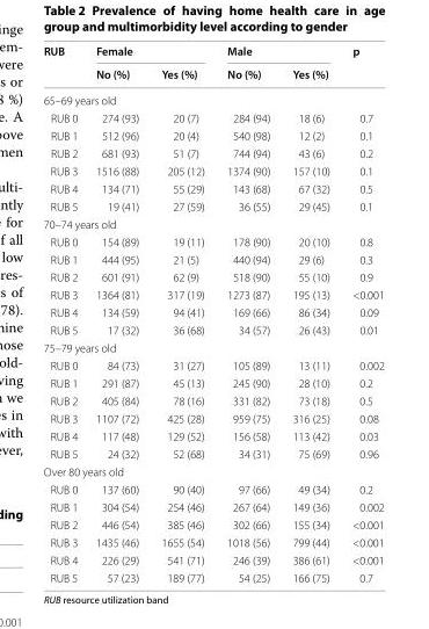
<table><thead><tr><td rowspan="2">RUB</td><td colspan="2">Female</td><td colspan="2">Male</td><td rowspan="2">p</td></tr><tr><td>No (%)</td><td>Yes (%)</td><td>No (%)</td><td>Yes (%)</td></tr></thead><tbody><tr><td colspan="6">65–69 years old</td></tr><tr><td>RUB 0</td><td>274 (93)</td><td>20 (7)</td><td>284 (94)</td><td>18 (6)</td><td>0.7</td></tr><tr><td>RUB 1</td><td>512 (96)</td><td>20 (4)</td><td>540 (98)</td><td>12 (2)</td><td>0.1</td></tr><tr><td>RUB 2</td><td>681 (93)</td><td>51 (7)</td><td>744 (94)</td><td>43 (6)</td><td>0.2</td></tr><tr><td>RUB 3</td><td>1516 (88)</td><td>205 (12)</td><td>1374 (90)</td><td>157 (10)</td><td>0.1</td></tr><tr><td>RUB 4</td><td>134 (71)</td><td>55 (29)</td><td>143 (68)</td><td>67 (32)</td><td>0.5</td></tr><tr><td>RUB 5</td><td>19 (41)</td><td>27 (59)</td><td>36 (55)</td><td>29 (45)</td><td>0.1</td></tr><tr><td colspan="6">70–74 years old</td></tr><tr><td>RUB 0</td><td>154 (89)</td><td>19 (11)</td><td>178 (90)</td><td>20 (10)</td><td>0.8</td></tr><tr><td>RUB 1</td><td>444 (95)</td><td>21 (5)</td><td>440 (94)</td><td>29 (6)</td><td>0.3</td></tr><tr><td>RUB 2</td><td>601 (91)</td><td>62 (9)</td><td>518 (90)</td><td>55 (10)</td><td>0.9</td></tr><tr><td>RUB 3</td><td>1364 (81)</td><td>317 (19)</td><td>1273 (87)</td><td>195 (13)</td><td>&lt;0.001</td></tr><tr><td>RUB 4</td><td>134 (59)</td><td>94 (41)</td><td>169 (66)</td><td>86 (34)</td><td>0.09</td></tr><tr><td>RUB 5</td><td>17 (32)</td><td>36 (68)</td><td>34 (57)</td><td>26 (43)</td><td>0.01</td></tr><tr><td colspan="6">75–79 years old</td></tr><tr><td>RUB 0</td><td>84 (73)</td><td>31 (27)</td><td>105 (89)</td><td>13 (11)</td><td>0.002</td></tr><tr><td>RUB 1</td><td>291 (87)</td><td>45 (13)</td><td>245 (90)</td><td>28 (10)</td><td>0.2</td></tr><tr><td>RUB 2</td><td>405 (84)</td><td>78 (16)</td><td>331 (82)</td><td>73 (18)</td><td>0.5</td></tr><tr><td>RUB 3</td><td>1107 (72)</td><td>425 (28)</td><td>959 (75)</td><td>316 (25)</td><td>0.08</td></tr><tr><td>RUB 4</td><td>117 (48)</td><td>129 (52)</td><td>156 (58)</td><td>113 (42)</td><td>0.03</td></tr><tr><td>RUB 5</td><td>24 (32)</td><td>52 (68)</td><td>34 (31)</td><td>75 (69)</td><td>0.96</td></tr><tr><td colspan="6">Over 80 years old</td></tr><tr><td>RUB 0</td><td>137 (60)</td><td>90 (40)</td><td>97 (66)</td><td>49 (34)</td><td>0.2</td></tr><tr><td>RUB 1</td><td>304 (54)</td><td>254 (46)</td><td>267 (64)</td><td>149 (36)</td><td>0.002</td></tr><tr><td>RUB 2</td><td>446 (54)</td><td>385 (46)</td><td>302 (66)</td><td>155 (34)</td><td>&lt;0.001</td></tr><tr><td>RUB 3</td><td>1435 (46)</td><td>1655 (54)</td><td>1018 (56)</td><td>799 (44)</td><td>&lt;0.001</td></tr><tr><td>RUB 4</td><td>226 (29)</td><td>541 (71)</td><td>246 (39)</td><td>386 (61)</td><td>&lt;0.001</td></tr><tr><td>RUB 5</td><td>57 (23)</td><td>189 (77)</td><td>54 (25)</td><td>166 (75)</td><td>0.7</td></tr></tbody></table>